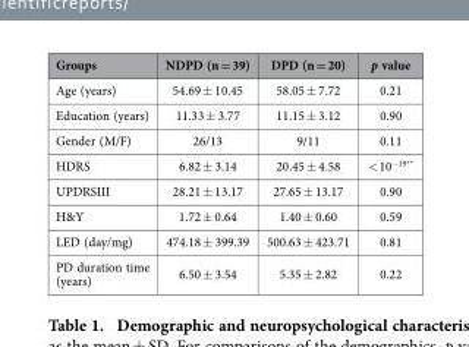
<table><thead><tr><td>Groups</td><td>NDPD (n = 39)</td><td>DPD (n = 20)</td><td>p value</td></tr></thead><tbody><tr><td>Age (years)</td><td>54.69 ± 10.45</td><td>58.05 ± 7.72</td><td>0.21</td></tr><tr><td>Education (years)</td><td>11.33 ± 3.77</td><td>11.15 ± 3.12</td><td>0.90</td></tr><tr><td>Gender (M/F)</td><td>26/13</td><td>9/11</td><td>0.11</td></tr><tr><td>HDRS</td><td>6.82 ± 3.14</td><td>20.45 ± 4.58</td><td>&lt; 10<sup>−19**</sup></td></tr><tr><td>UPDRSIII</td><td>28.21 ± 13.17</td><td>27.65 ± 13.17</td><td>0.90</td></tr><tr><td>H&amp;Y</td><td>1.72 ± 0.64</td><td>1.40 ± 0.60</td><td>0.59</td></tr><tr><td>LED (day/mg)</td><td>474.18 ± 399.39</td><td>500.63 ± 423.71</td><td>0.81</td></tr><tr><td>PD duration time (years)</td><td>6.50 ± 3.54</td><td>5.35 ± 2.82</td><td>0.22</td></tr></tbody></table>